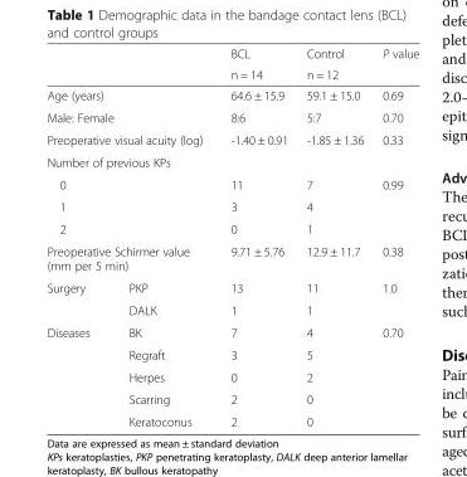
<table><thead><tr><td rowspan="2"></td><td rowspan="2"></td><td rowspan="2">BCL n = 14</td><td rowspan="2">Control n = 12</td><td rowspan="2">P value</td></tr><tr></tr></thead><tbody><tr><td colspan="2">Age (years)</td><td>64.6 ± 15.9</td><td>59.1 ± 15.0</td><td>0.69</td></tr><tr><td colspan="2">Male: Female</td><td>8:6</td><td>5:7</td><td>0.70</td></tr><tr><td colspan="2">Preoperative visual acuity (log)</td><td>-1.40 ± 0.91</td><td>-1.85 ± 1.36</td><td>0.33</td></tr><tr><td colspan="5">Number of previous KPs</td></tr><tr><td colspan="2">0</td><td>11</td><td>7</td><td>0.99</td></tr><tr><td colspan="2">1</td><td>3</td><td>4</td><td></td></tr><tr><td colspan="2">2</td><td>0</td><td>1</td><td></td></tr><tr><td colspan="2">Preoperative Schirmer value (mm per 5 min)</td><td>9.71 ± 5.76</td><td>12.9 ± 11.7</td><td>0.38</td></tr><tr><td rowspan="2">Surgery</td><td>PKP</td><td>13</td><td>11</td><td>1.0</td></tr><tr><td>DALK</td><td>1</td><td>1</td><td></td></tr><tr><td rowspan="5">Diseases</td><td>BK</td><td>7</td><td>4</td><td>0.70</td></tr><tr><td>Regraft</td><td>3</td><td>5</td><td></td></tr><tr><td>Herpes</td><td>0</td><td>2</td><td></td></tr><tr><td>Scarring</td><td>2</td><td>0</td><td></td></tr><tr><td>Keratoconus</td><td>2</td><td>0</td><td></td></tr></tbody></table>